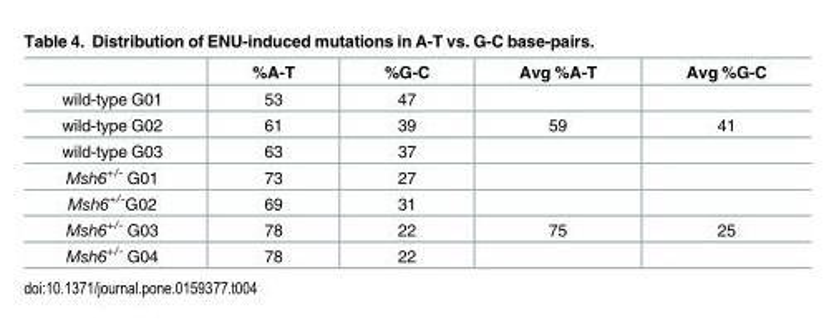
<table><thead><tr><td></td><td>%A-T</td><td>%G-C</td><td>Avg %A-T</td><td>Avg %G-C</td></tr></thead><tbody><tr><td>wild-type G01</td><td>53</td><td>47</td><td></td><td></td></tr><tr><td>wild-type G02</td><td>61</td><td>39</td><td>59</td><td>41</td></tr><tr><td>wild-type G03</td><td>63</td><td>37</td><td></td><td></td></tr><tr><td>Msh6<sup>+/-</sup> G01</td><td>73</td><td>27</td><td></td><td></td></tr><tr><td>Msh6<sup>+/-</sup>G02</td><td>69</td><td>31</td><td></td><td></td></tr><tr><td>Msh6<sup>+/-</sup> G03</td><td>78</td><td>22</td><td>75</td><td>25</td></tr><tr><td>Msh6<sup>+/-</sup> G04</td><td>78</td><td>22</td><td></td><td></td></tr></tbody></table>